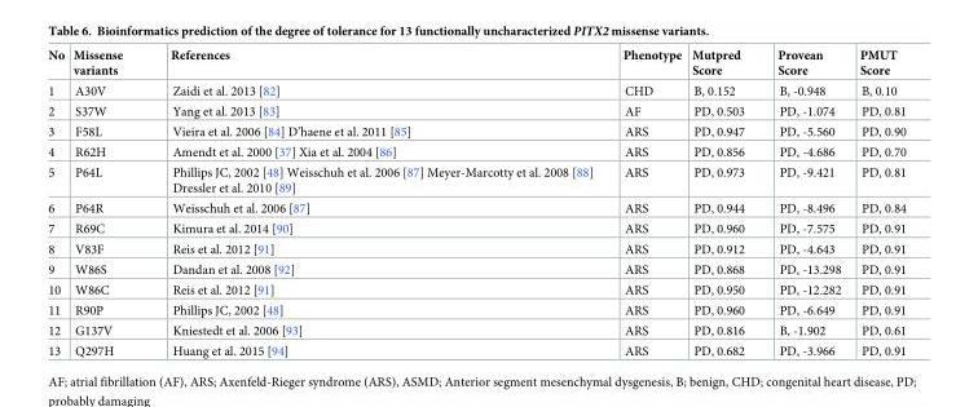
<table><thead><tr><td>No</td><td>Missense variants</td><td>References</td><td>Phenotype</td><td>Mutpred Score</td><td>Provean Score</td><td>PMUT Score</td></tr></thead><tbody><tr><td>1</td><td>A30V</td><td>Zaidi et al. 2013 [82]</td><td>CHD</td><td>B, 0.152</td><td>B, -0.948</td><td>B, 0.10</td></tr><tr><td>2</td><td>S37W</td><td>Yang et al. 2013 [83]</td><td>AF</td><td>PD, 0.503</td><td>PD, -1.074</td><td>PD, 0.81</td></tr><tr><td>3</td><td>F58L</td><td>Vieira et al. 2006 [84] D’haene et al. 2011 [85]</td><td>ARS</td><td>PD, 0.947</td><td>PD, -5.560</td><td>PD, 0.90</td></tr><tr><td>4</td><td>R62H</td><td>Amendt et al. 2000 [37] Xia et al. 2004 [86]</td><td>ARS</td><td>PD, 0.856</td><td>PD, -4.686</td><td>PD, 0.70</td></tr><tr><td>5</td><td>P64L</td><td>Phillips JC, 2002 [48] Weisschuh et al. 2006 [87] Meyer-Marcotty et al. 2008 [88] Dressler et al. 2010 [89]</td><td>ARS</td><td>PD, 0.973</td><td>PD, -9.421</td><td>PD, 0.81</td></tr><tr><td>6</td><td>P64R</td><td>Weisschuh et al. 2006 [87]</td><td>ARS</td><td>PD, 0.944</td><td>PD, -8.496</td><td>PD, 0.84</td></tr><tr><td>7</td><td>R69C</td><td>Kimura et al. 2014 [90]</td><td>ARS</td><td>PD, 0.960</td><td>PD, -7.575</td><td>PD, 0.91</td></tr><tr><td>8</td><td>V83F</td><td>Reis et al. 2012 [91]</td><td>ARS</td><td>PD, 0.912</td><td>PD, -4.643</td><td>PD, 0.91</td></tr><tr><td>9</td><td>W86S</td><td>Dandan et al. 2008 [92]</td><td>ARS</td><td>PD, 0.868</td><td>PD, -13.298</td><td>PD, 0.91</td></tr><tr><td>10</td><td>W86C</td><td>Reis et al. 2012 [91]</td><td>ARS</td><td>PD, 0.950</td><td>PD, -12.282</td><td>PD, 0.91</td></tr><tr><td>11</td><td>R90P</td><td>Phillips JC, 2002 [48]</td><td>ARS</td><td>PD, 0.960</td><td>PD, -6.649</td><td>PD, 0.91</td></tr><tr><td>12</td><td>G137V</td><td>Kniestedt et al. 2006 [93]</td><td>ARS</td><td>PD, 0.816</td><td>B, -1.902</td><td>PD, 0.61</td></tr><tr><td>13</td><td>Q297H</td><td>Huang et al. 2015 [94]</td><td>ARS</td><td>PD, 0.682</td><td>PD, -3.966</td><td>PD, 0.91</td></tr></tbody></table>